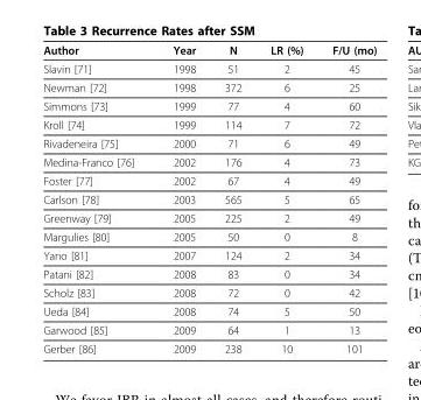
<table><thead><tr><td>Author</td><td>Year</td><td>N</td><td>LR (%)</td><td>F/U (mo)</td></tr></thead><tbody><tr><td>Slavin [71]</td><td>1998</td><td>51</td><td>2</td><td>45</td></tr><tr><td>Newman [72]</td><td>1998</td><td>372</td><td>6</td><td>25</td></tr><tr><td>Simmons [73]</td><td>1999</td><td>77</td><td>4</td><td>60</td></tr><tr><td>Kroll [74]</td><td>1999</td><td>114</td><td>7</td><td>72</td></tr><tr><td>Rivadeneira [75]</td><td>2000</td><td>71</td><td>6</td><td>49</td></tr><tr><td>Medina-Franco [76]</td><td>2002</td><td>176</td><td>4</td><td>73</td></tr><tr><td>Foster [77]</td><td>2002</td><td>67</td><td>4</td><td>49</td></tr><tr><td>Carlson [78]</td><td>2003</td><td>565</td><td>5</td><td>65</td></tr><tr><td>Greenway [79]</td><td>2005</td><td>225</td><td>2</td><td>49</td></tr><tr><td>Margulies [80]</td><td>2005</td><td>50</td><td>0</td><td>8</td></tr><tr><td>Yano [81]</td><td>2007</td><td>124</td><td>2</td><td>34</td></tr><tr><td>Patani [82]</td><td>2008</td><td>83</td><td>0</td><td>34</td></tr><tr><td>Scholz [83]</td><td>2008</td><td>72</td><td>0</td><td>42</td></tr><tr><td>Ueda [84]</td><td>2008</td><td>74</td><td>5</td><td>50</td></tr><tr><td>Garwood [85]</td><td>2009</td><td>64</td><td>1</td><td>13</td></tr><tr><td>Gerber [86]</td><td>2009</td><td>238</td><td>10</td><td>101</td></tr></tbody></table>